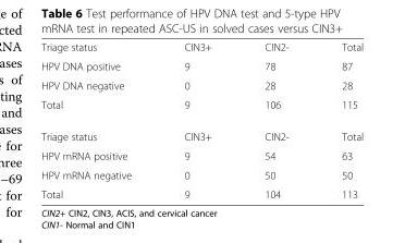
<table><tbody><tr><td>Triage status</td><td>CIN3+</td><td>CIN2-</td><td>Total</td></tr><tr><td>HPV DNA positive</td><td>9</td><td>78</td><td>87</td></tr><tr><td>HPV DNA negative</td><td>0</td><td>28</td><td>28</td></tr><tr><td>Total</td><td>9</td><td>106</td><td>115</td></tr><tr><td>Triage status</td><td>CIN3+</td><td>CIN2-</td><td>Total</td></tr><tr><td>HPV mRNA positive</td><td>9</td><td>54</td><td>63</td></tr><tr><td>HPV mRNA negative</td><td>0</td><td>50</td><td>50</td></tr><tr><td>Total</td><td>9</td><td>104</td><td>113</td></tr></tbody></table>